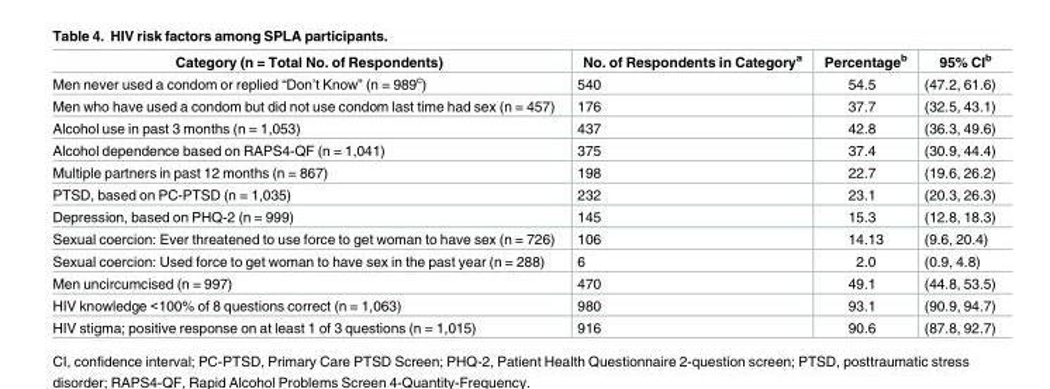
<table><thead><tr><td>Category (n = Total No. of Respondents)</td><td>No. of Respondents in Category<sup>a</sup></td><td>Percentage<sup>b</sup></td><td>95% CI<sup>b</sup></td></tr></thead><tbody><tr><td>Men never used a condom or replied “Don’t Know” (n = 989<sup>c</sup>)</td><td>540</td><td>54.5</td><td>(47.2, 61.6)</td></tr><tr><td>Men who have used a condom but did not use condom last time had sex (n = 457)</td><td>176</td><td>37.7</td><td>(32.5, 43.1)</td></tr><tr><td>Alcohol use in past 3 months (n = 1,053)</td><td>437</td><td>42.8</td><td>(36.3, 49.6)</td></tr><tr><td>Alcohol dependence based on RAPS4-QF (n = 1,041)</td><td>375</td><td>37.4</td><td>(30.9, 44.4)</td></tr><tr><td>Multiple partners in past 12 months (n = 867)</td><td>198</td><td>22.7</td><td>(19.6, 26.2)</td></tr><tr><td>PTSD, based on PC-PTSD (n = 1,035)</td><td>232</td><td>23.1</td><td>(20.3, 26.3)</td></tr><tr><td>Depression, based on PHQ-2 (n = 999)</td><td>145</td><td>15.3</td><td>(12.8, 18.3)</td></tr><tr><td>Sexual coercion: Ever threatened to use force to get woman to have sex (n = 726)</td><td>106</td><td>14.13</td><td>(9.6, 20.4)</td></tr><tr><td>Sexual coercion: Used force to get woman to have sex in the past year (n = 288)</td><td>6</td><td>2.0</td><td>(0.9, 4.8)</td></tr><tr><td>Men uncircumcised (n = 997)</td><td>470</td><td>49.1</td><td>(44.8, 53.5)</td></tr><tr><td>HIV knowledge &lt;100% of 8 questions correct (n = 1,063)</td><td>980</td><td>93.1</td><td>(90.9, 94.7)</td></tr><tr><td>HIV stigma; positive response on at least 1 of 3 questions (n = 1,015)</td><td>916</td><td>90.6</td><td>(87.8, 92.7)</td></tr></tbody></table>